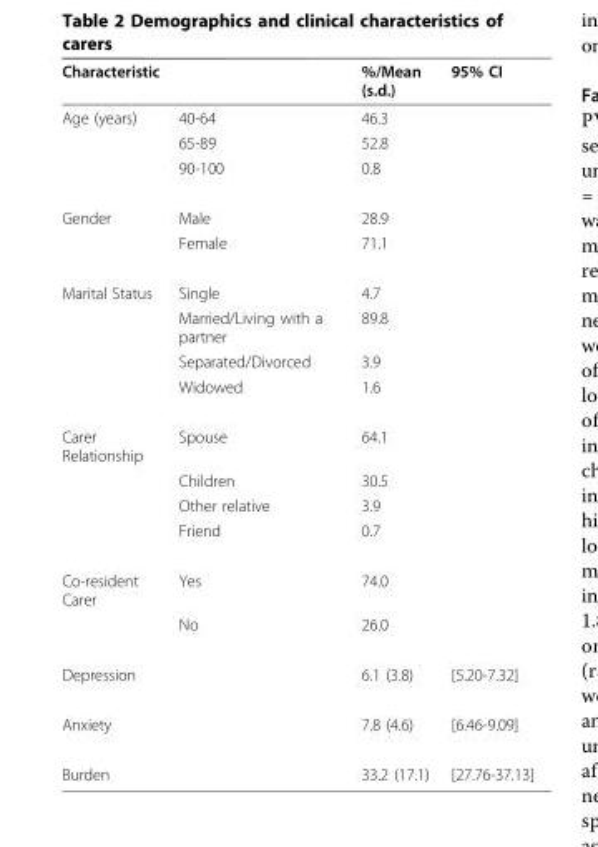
<table><thead><tr><td>Characteristic</td><td></td><td>%/Mean (s.d.)</td><td>95% CI</td></tr></thead><tbody><tr><td rowspan="3">Age (years)</td><td>40-64</td><td>46.3</td><td></td></tr><tr><td>65-89</td><td>52.8</td><td></td></tr><tr><td>90-100</td><td>0.8</td><td></td></tr><tr><td rowspan="2">Gender</td><td>Male</td><td>28.9</td><td></td></tr><tr><td>Female</td><td>71.1</td><td></td></tr><tr><td rowspan="4">Marital Status</td><td>Single</td><td>4.7</td><td></td></tr><tr><td>Married/Living with a partner</td><td>89.8</td><td></td></tr><tr><td>Separated/Divorced</td><td>3.9</td><td></td></tr><tr><td>Widowed</td><td>1.6</td><td></td></tr><tr><td rowspan="4">Carer Relationship</td><td>Spouse</td><td>64.1</td><td></td></tr><tr><td>Children</td><td>30.5</td><td></td></tr><tr><td>Other relative</td><td>3.9</td><td></td></tr><tr><td>Friend</td><td>0.7</td><td></td></tr><tr><td rowspan="2">Co-resident Carer</td><td>Yes</td><td>74.0</td><td></td></tr><tr><td>No</td><td>26.0</td><td></td></tr><tr><td>Depression</td><td></td><td>6.1 (3.8)</td><td>[5.20-7.32]</td></tr><tr><td>Anxiety</td><td></td><td>7.8 (4.6)</td><td>[6.46-9.09]</td></tr><tr><td>Burden</td><td></td><td>33.2 (17.1)</td><td>[27.76-37.13]</td></tr></tbody></table>